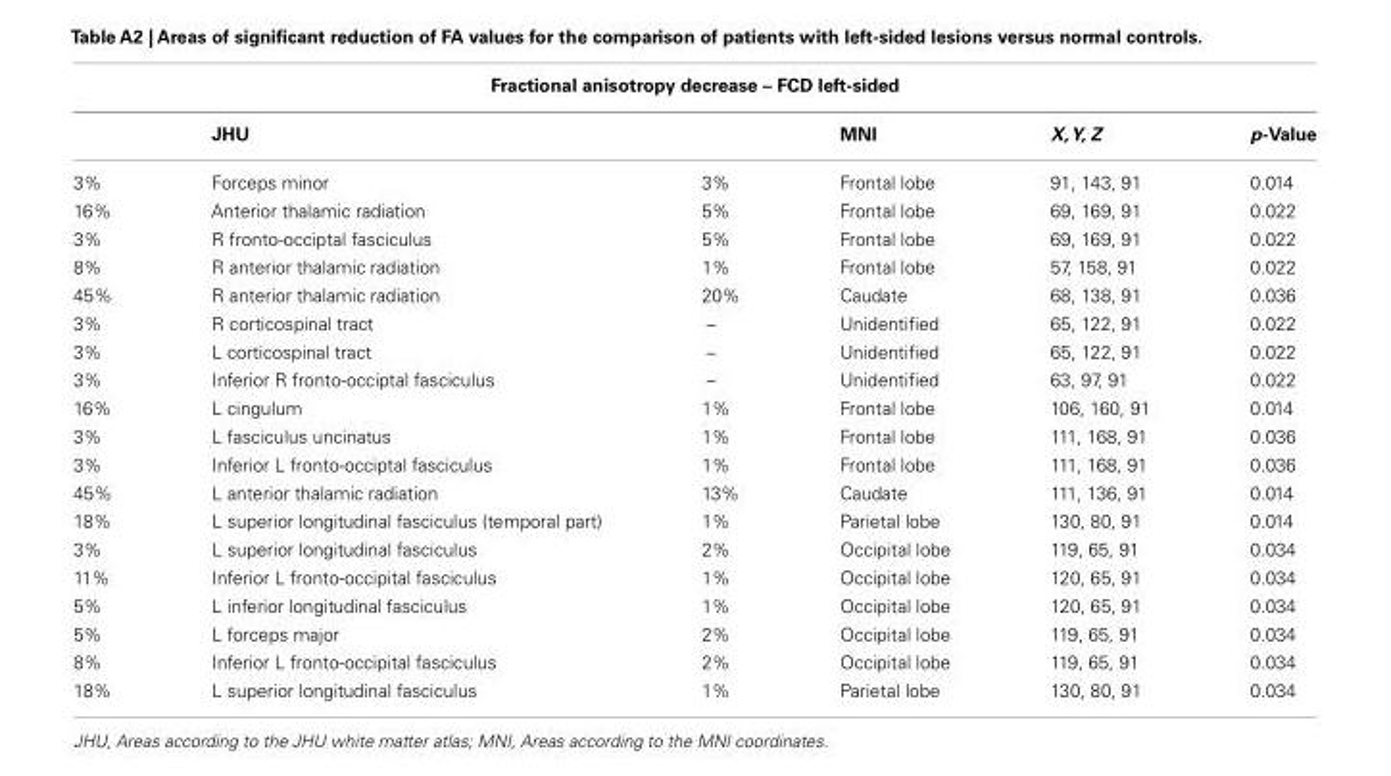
<table><thead><tr><td colspan="6">Fractional anisotropy decrease – FCD left-sided</td></tr><tr><td></td><td>JHU</td><td></td><td>MNI</td><td>X,Y, Z</td><td>p-Value</td></tr></thead><tbody><tr><td>3%</td><td>Forceps minor</td><td>3%</td><td>Frontal lobe</td><td>91, 143, 91</td><td>0.014</td></tr><tr><td>16%</td><td>Anterior thalamic radiation</td><td>5%</td><td>Frontal lobe</td><td>69, 169, 91</td><td>0.022</td></tr><tr><td>3%</td><td>R fronto-occiptal fasciculus</td><td>5%</td><td>Frontal lobe</td><td>69, 169, 91</td><td>0.022</td></tr><tr><td>8%</td><td>R anterior thalamic radiation</td><td>1%</td><td>Frontal lobe</td><td>57, 158, 91</td><td>0.022</td></tr><tr><td>45%</td><td>R anterior thalamic radiation</td><td>20%</td><td>Caudate</td><td>68, 138, 91</td><td>0.036</td></tr><tr><td>3%</td><td>R corticospinal tract</td><td>–</td><td>Unidentified</td><td>65, 122, 91</td><td>0.022</td></tr><tr><td>3%</td><td>L corticospinal tract</td><td>–</td><td>Unidentified</td><td>65, 122, 91</td><td>0.022</td></tr><tr><td>3%</td><td>Inferior R fronto-occiptal fasciculus</td><td>–</td><td>Unidentified</td><td>63, 97, 91</td><td>0.022</td></tr><tr><td>16%</td><td>L cingulum</td><td>1%</td><td>Frontal lobe</td><td>106, 160, 91</td><td>0.014</td></tr><tr><td>3%</td><td>L fasciculus uncinatus</td><td>1%</td><td>Frontal lobe</td><td>111, 168, 91</td><td>0.036</td></tr><tr><td>3%</td><td>Inferior L fronto-occiptal fasciculus</td><td>1%</td><td>Frontal lobe</td><td>111, 168, 91</td><td>0.036</td></tr><tr><td>45%</td><td>L anterior thalamic radiation</td><td>13%</td><td>Caudate</td><td>111, 136, 91</td><td>0.014</td></tr><tr><td>18%</td><td>L superior longitudinal fasciculus (temporal part)</td><td>1%</td><td>Parietal lobe</td><td>130, 80, 91</td><td>0.014</td></tr><tr><td>3%</td><td>L superior longitudinal fasciculus</td><td>2%</td><td>Occipital lobe</td><td>119, 65, 91</td><td>0.034</td></tr><tr><td>11%</td><td>Inferior L fronto-occipital fasciculus</td><td>1%</td><td>Occipital lobe</td><td>120, 65, 91</td><td>0.034</td></tr><tr><td>5%</td><td>L inferior longitudinal fasciculus</td><td>1%</td><td>Occipital lobe</td><td>120, 65, 91</td><td>0.034</td></tr><tr><td>5%</td><td>L forceps major</td><td>2%</td><td>Occipital lobe</td><td>119, 65, 91</td><td>0.034</td></tr><tr><td>8%</td><td>Inferior L fronto-occipital fasciculus</td><td>2%</td><td>Occipital lobe</td><td>119, 65, 91</td><td>0.034</td></tr><tr><td>18%</td><td>L superior longitudinal fasciculus</td><td>1%</td><td>Parietal lobe</td><td>130, 80, 91</td><td>0.034</td></tr></tbody></table>